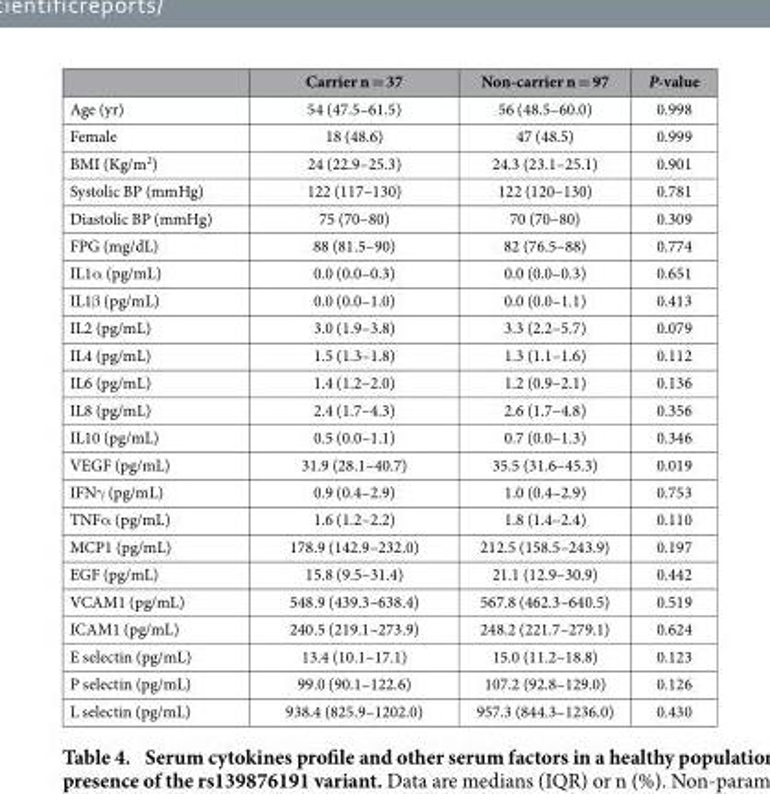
<table><thead><tr><td></td><td>Carrier n = 37</td><td>Non-carrier n = 97</td><td>P-value</td></tr></thead><tbody><tr><td>Age (yr)</td><td>54 (47.5–61.5)</td><td>56 (48.5–60.0)</td><td>0.998</td></tr><tr><td>Female</td><td>18 (48.6)</td><td>47 (48.5)</td><td>0.999</td></tr><tr><td>BMI (Kg/m<sup>2</sup>)</td><td>24 (22.9–25.3)</td><td>24.3 (23.1–25.1)</td><td>0.901</td></tr><tr><td>Systolic BP (mmHg)</td><td>122 (117–130)</td><td>122 (120–130)</td><td>0.781</td></tr><tr><td>Diastolic BP (mmHg)</td><td>75 (70–80)</td><td>70 (70–80)</td><td>0.309</td></tr><tr><td>FPG (mg/dL)</td><td>88 (81.5–90)</td><td>82 (76.5–88)</td><td>0.774</td></tr><tr><td>IL1α (pg/mL)</td><td>0.0 (0.0–0.3)</td><td>0.0 (0.0–0.3)</td><td>0.651</td></tr><tr><td>IL1β (pg/mL)</td><td>0.0 (0.0–1.0)</td><td>0.0 (0.0–1.1)</td><td>0.413</td></tr><tr><td>IL2 (pg/mL)</td><td>3.0 (1.9–3.8)</td><td>3.3 (2.2–5.7)</td><td>0.079</td></tr><tr><td>IL4 (pg/mL)</td><td>1.5 (1.3–1.8)</td><td>1.3 (1.1–1.6)</td><td>0.112</td></tr><tr><td>IL6 (pg/mL)</td><td>1.4 (1.2–2.0)</td><td>1.2 (0.9–2.1)</td><td>0.136</td></tr><tr><td>IL8 (pg/mL)</td><td>2.4 (1.7–4.3)</td><td>2.6 (1.7–4.8)</td><td>0.356</td></tr><tr><td>IL10 (pg/mL)</td><td>0.5 (0.0–1.1)</td><td>0.7 (0.0–1.3)</td><td>0.346</td></tr><tr><td>VEGF (pg/mL)</td><td>31.9 (28.1–40.7)</td><td>35.5 (31.6–45.3)</td><td>0.019</td></tr><tr><td>IFNγ (pg/mL)</td><td>0.9 (0.4–2.9)</td><td>1.0 (0.4–2.9)</td><td>0.753</td></tr><tr><td>TNFα (pg/mL)</td><td>1.6 (1.2–2.2)</td><td>1.8 (1.4–2.4)</td><td>0.110</td></tr><tr><td>MCP1 (pg/mL)</td><td>178.9 (142.9–232.0)</td><td>212.5 (158.5–243.9)</td><td>0.197</td></tr><tr><td>EGF (pg/mL)</td><td>15.8 (9.5–31.4)</td><td>21.1 (12.9–30.9)</td><td>0.442</td></tr><tr><td>VCAM1 (pg/mL)</td><td>548.9 (439.3–638.4)</td><td>567.8 (462.3–640.5)</td><td>0.519</td></tr><tr><td>ICAM1 (pg/mL)</td><td>240.5 (219.1–273.9)</td><td>248.2 (221.7–279.1)</td><td>0.624</td></tr><tr><td>E selectin (pg/mL)</td><td>13.4 (10.1–17.1)</td><td>15.0 (11.2–18.8)</td><td>0.123</td></tr><tr><td>P selectin (pg/mL)</td><td>99.0 (90.1–122.6)</td><td>107.2 (92.8–129.0)</td><td>0.126</td></tr><tr><td>L selectin (pg/mL)</td><td>938.4 (825.9–1202.0)</td><td>957.3 (844.3–1236.0)</td><td>0.430</td></tr></tbody></table>